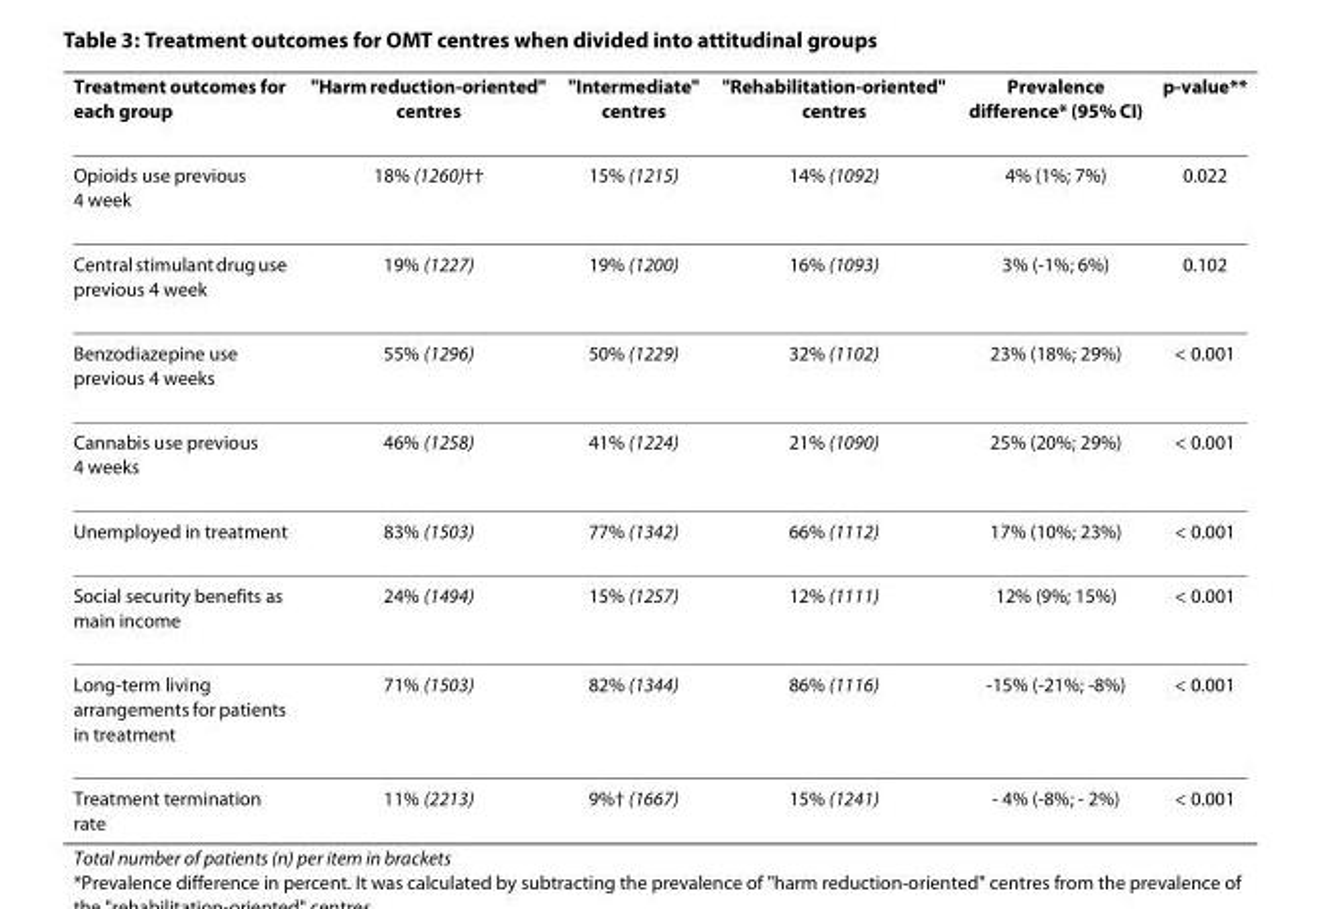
<table><thead><tr><td>Treatment outcomes for each group</td><td>&quot;Harm reduction-oriented&quot; centres</td><td>&quot;Intermediate&quot; centres</td><td>&quot;Rehabilitation-oriented&quot; centres</td><td>Prevalence difference* (95% CI)</td><td>p-value**</td></tr></thead><tbody><tr><td>Opioids use previous 4 week</td><td>18% (1260)††</td><td>15% (1215)</td><td>14% (1092)</td><td>4% (1%; 7%)</td><td>0.022</td></tr><tr><td>Central stimulant drug use previous 4 week</td><td>19% (1227)</td><td>19% (1200)</td><td>16% (1093)</td><td>3% (-1%; 6%)</td><td>0.102</td></tr><tr><td>Benzodiazepine use previous 4 weeks</td><td>55% (1296)</td><td>50% (1229)</td><td>32% (1102)</td><td>23% (18%; 29%)</td><td>&lt; 0.001</td></tr><tr><td>Cannabis use previous 4 weeks</td><td>46% (1258)</td><td>41% (1224)</td><td>21% (1090)</td><td>25% (20%; 29%)</td><td>&lt; 0.001</td></tr><tr><td>Unemployed in treatment</td><td>83% (1503)</td><td>77% (1342)</td><td>66% (1112)</td><td>17% (10%; 23%)</td><td>&lt; 0.001</td></tr><tr><td>Social security benefits as main income</td><td>24% (1494)</td><td>15% (1257)</td><td>12% (1111)</td><td>12% (9%; 15%)</td><td>&lt; 0.001</td></tr><tr><td>Long-term living arrangements for patients in treatment</td><td>71% (1503)</td><td>82% (1344)</td><td>86% (1116)</td><td>-15% (-21%; -8%)</td><td>&lt; 0.001</td></tr><tr><td>Treatment termination rate</td><td>11% (2213)</td><td>9%† (1667)</td><td>15% (1241)</td><td>- 4% (-8%; - 2%)</td><td>&lt; 0.001</td></tr></tbody></table>